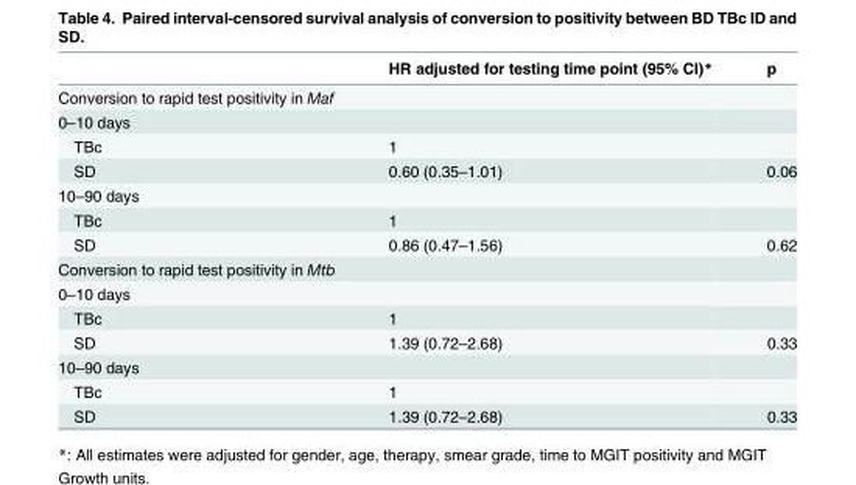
<table><thead><tr><td></td><td>HR adjusted for testing time point (95% CI)*</td><td>p</td></tr></thead><tbody><tr><td colspan="3">Conversion to rapid test positivity in Maf</td></tr><tr><td colspan="3">0–10 days</td></tr><tr><td>TBc</td><td>1</td><td></td></tr><tr><td>SD</td><td>0.60 (0.35–1.01)</td><td>0.06</td></tr><tr><td colspan="3">10–90 days</td></tr><tr><td>TBc</td><td>1</td><td></td></tr><tr><td>SD</td><td>0.86 (0.47–1.56)</td><td>0.62</td></tr><tr><td colspan="3">Conversion to rapid test positivity in Mtb</td></tr><tr><td colspan="3">0–10 days</td></tr><tr><td>TBc</td><td>1</td><td></td></tr><tr><td>SD</td><td>1.39 (0.72–2.68)</td><td>0.33</td></tr><tr><td colspan="3">10–90 days</td></tr><tr><td>TBc</td><td>1</td><td></td></tr><tr><td>SD</td><td>1.39 (0.72–2.68)</td><td>0.33</td></tr></tbody></table>